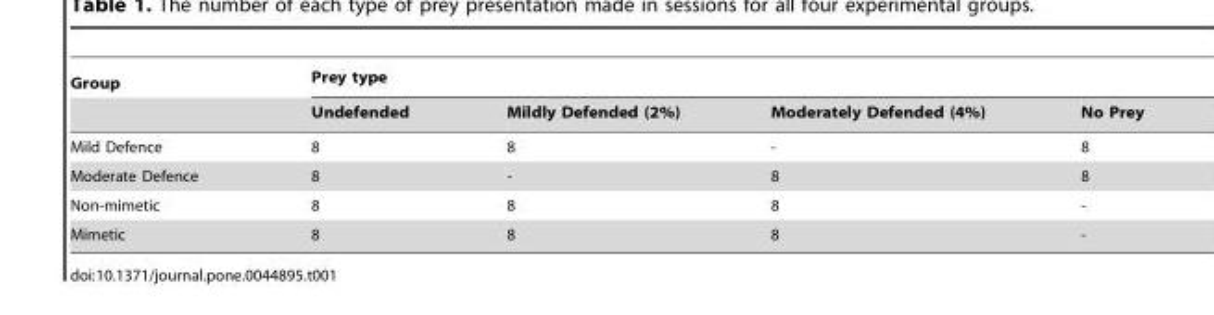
<table><thead><tr><td rowspan="2">Group</td><td colspan="4">Prey type</td></tr><tr><td>Undefended</td><td>Mildly Defended (2%)</td><td>Moderately Defended (4%)</td><td>No Prey</td></tr></thead><tbody><tr><td>Mild Defence</td><td>8</td><td>8</td><td>-</td><td>8</td></tr><tr><td>Moderate Defence</td><td>8</td><td>-</td><td>8</td><td>8</td></tr><tr><td>Non-mimetic</td><td>8</td><td>8</td><td>8</td><td>-</td></tr><tr><td>Mimetic</td><td>8</td><td>8</td><td>8</td><td>-</td></tr></tbody></table>